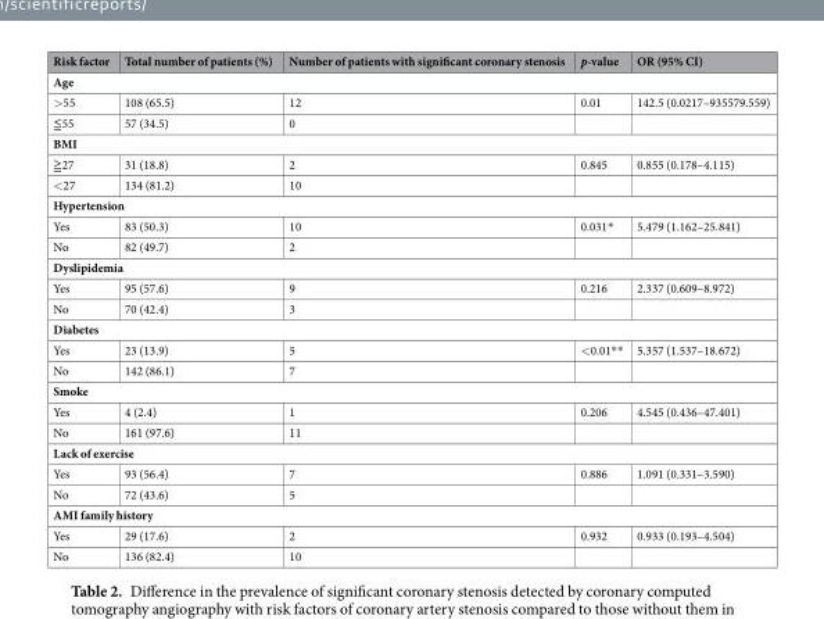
<table><thead><tr><td>Risk factor</td><td>Total number of patients (%)</td><td>Number of patients with significant coronary stenosis</td><td>p-value</td><td>OR (95% CI)</td></tr></thead><tbody><tr><td colspan="5">Age</td></tr><tr><td>&gt;55</td><td>108 (65.5)</td><td>12</td><td>0.01</td><td>142.5 (0.0217–935579.559)</td></tr><tr><td>≦55</td><td>57 (34.5)</td><td>0</td><td></td><td></td></tr><tr><td colspan="5">BMI</td></tr><tr><td>≧27</td><td>31 (18.8)</td><td>2</td><td>0.845</td><td>0.855 (0.178–4.115)</td></tr><tr><td>&lt;27</td><td>134 (81.2)</td><td>10</td><td></td><td></td></tr><tr><td colspan="5">Hypertension</td></tr><tr><td>Yes</td><td>83 (50.3)</td><td>10</td><td>0.031*</td><td>5.479 (1.162–25.841)</td></tr><tr><td>No</td><td>82 (49.7)</td><td>2</td><td></td><td></td></tr><tr><td colspan="5">Dyslipidemia</td></tr><tr><td>Yes</td><td>95 (57.6)</td><td>9</td><td>0.216</td><td>2.337 (0.609–8.972)</td></tr><tr><td>No</td><td>70 (42.4)</td><td>3</td><td></td><td></td></tr><tr><td colspan="5">Diabetes</td></tr><tr><td>Yes</td><td>23 (13.9)</td><td>5</td><td>&lt;0.01**</td><td>5.357 (1.537–18.672)</td></tr><tr><td>No</td><td>142 (86.1)</td><td>7</td><td></td><td></td></tr><tr><td colspan="5">Smoke</td></tr><tr><td>Yes</td><td>4 (2.4)</td><td>1</td><td>0.206</td><td>4.545 (0.436–47.401)</td></tr><tr><td>No</td><td>161 (97.6)</td><td>11</td><td></td><td></td></tr><tr><td colspan="5">Lack of exercise</td></tr><tr><td>Yes</td><td>93 (56.4)</td><td>7</td><td>0.886</td><td>1.091 (0.331–3.590)</td></tr><tr><td>No</td><td>72 (43.6)</td><td>5</td><td></td><td></td></tr><tr><td colspan="5">AMI family history</td></tr><tr><td>Yes</td><td>29 (17.6)</td><td>2</td><td>0.932</td><td>0.933 (0.193–4.504)</td></tr><tr><td>No</td><td>136 (82.4)</td><td>10</td><td></td><td></td></tr></tbody></table>